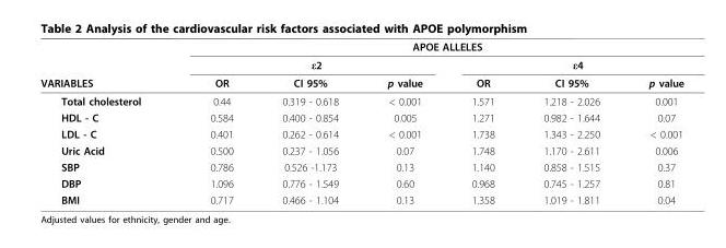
<table><thead><tr><td rowspan="3">VARIABLES</td><td colspan="6">APOE ALLELES</td></tr><tr><td colspan="3">ε2</td><td colspan="3">ε4</td></tr><tr><td>OR</td><td>CI 95%</td><td>p value</td><td>OR</td><td>CI 95%</td><td>p value</td></tr></thead><tbody><tr><td>Total cholesterol</td><td>0.44</td><td>0.319 - 0.618</td><td>&lt; 0.001</td><td>1.571</td><td>1.218 - 2.026</td><td>0.001</td></tr><tr><td>HDL - C</td><td>0.584</td><td>0.400 - 0.854</td><td>0.005</td><td>1.271</td><td>0.982 - 1.644</td><td>0.07</td></tr><tr><td>LDL - C</td><td>0.401</td><td>0.262 - 0.614</td><td>&lt; 0.001</td><td>1.738</td><td>1.343 - 2.250</td><td>&lt; 0.001</td></tr><tr><td>Uric Acid</td><td>0.500</td><td>0.237 - 1.056</td><td>0.07</td><td>1.748</td><td>1.170 - 2.611</td><td>0.006</td></tr><tr><td>SBP</td><td>0.786</td><td>0.526 -1.173</td><td>0.13</td><td>1.140</td><td>0.858 - 1.515</td><td>0.37</td></tr><tr><td>DBP</td><td>1.096</td><td>0.776 - 1.549</td><td>0.60</td><td>0.968</td><td>0.745 - 1.257</td><td>0.81</td></tr><tr><td>BMI</td><td>0.717</td><td>0.466 - 1.104</td><td>0.13</td><td>1.358</td><td>1.019 - 1.811</td><td>0.04</td></tr></tbody></table>